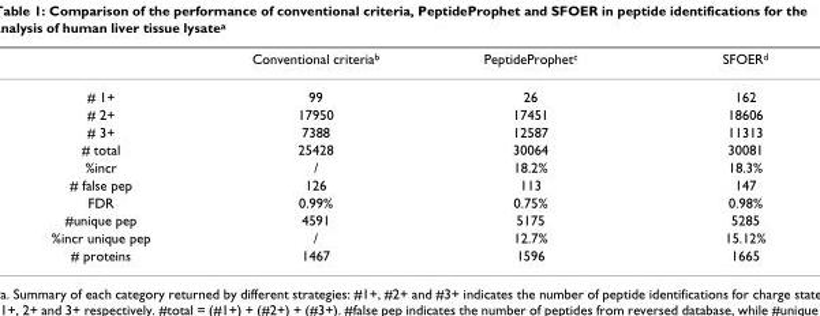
<table><thead><tr><td></td><td>Conventional criteria<sup>b</sup></td><td>PeptideProphet<sup>c</sup></td><td>SFOER<sup>d</sup></td></tr></thead><tbody><tr><td># 1+</td><td>99</td><td>26</td><td>162</td></tr><tr><td># 2+</td><td>17950</td><td>17451</td><td>18606</td></tr><tr><td># 3+</td><td>7388</td><td>12587</td><td>11313</td></tr><tr><td># total</td><td>25428</td><td>30064</td><td>30081</td></tr><tr><td>%incr</td><td>/</td><td>18.2%</td><td>18.3%</td></tr><tr><td># false pep</td><td>126</td><td>113</td><td>147</td></tr><tr><td>FDR</td><td>0.99%</td><td>0.75%</td><td>0.98%</td></tr><tr><td>#unique pep</td><td>4591</td><td>5175</td><td>5285</td></tr><tr><td>%incr unique pep</td><td>/</td><td>12.7%</td><td>15.12%</td></tr><tr><td># proteins</td><td>1467</td><td>1596</td><td>1665</td></tr></tbody></table>